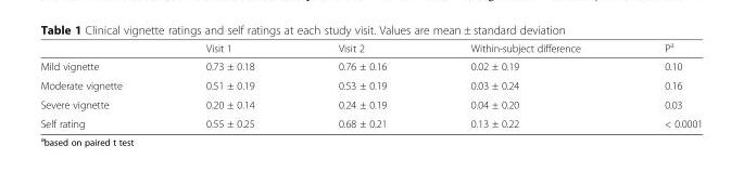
<table><thead><tr><td></td><td>Visit 1</td><td>Visit 2</td><td>Within-subject difference</td><td>P<sup>a</sup></td></tr></thead><tbody><tr><td>Mild vignette</td><td>0.73 ± 0.18</td><td>0.76 ± 0.16</td><td>0.02 ± 0.19</td><td>0.10</td></tr><tr><td>Moderate vignette</td><td>0.51 ± 0.19</td><td>0.53 ± 0.19</td><td>0.03 ± 0.24</td><td>0.16</td></tr><tr><td>Severe vignette</td><td>0.20 ± 0.14</td><td>0.24 ± 0.19</td><td>0.04 ± 0.20</td><td>0.03</td></tr><tr><td>Self rating</td><td>0.55 ± 0.25</td><td>0.68 ± 0.21</td><td>0.13 ± 0.22</td><td>&lt; 0.0001</td></tr></tbody></table>